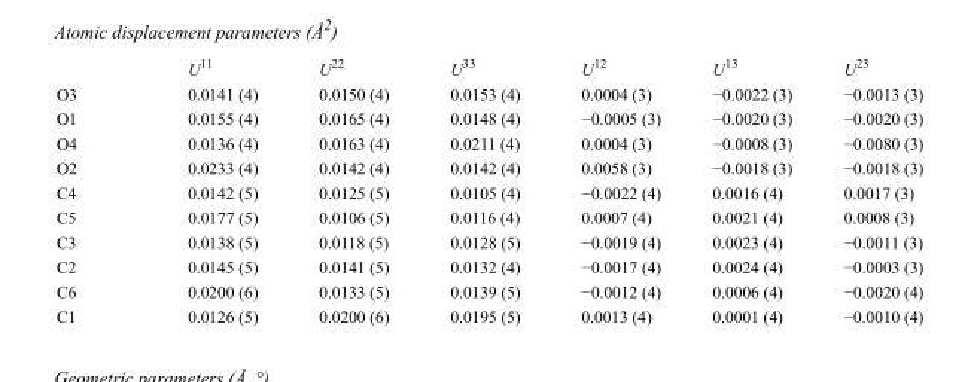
<table><thead><tr><td></td><td>U<sup>11</sup></td><td>U<sup>22</sup></td><td>U<sup>33</sup></td><td>U<sup>12</sup></td><td>U<sup>13</sup></td><td>U<sup>23</sup></td></tr></thead><tbody><tr><td>O3</td><td>0.0141 (4)</td><td>0.0150 (4)</td><td>0.0153 (4)</td><td>0.0004 (3)</td><td>−0.0022 (3)</td><td>−0.0013 (3)</td></tr><tr><td>O1</td><td>0.0155 (4)</td><td>0.0165 (4)</td><td>0.0148 (4)</td><td>−0.0005 (3)</td><td>−0.0020 (3)</td><td>−0.0020 (3)</td></tr><tr><td>O4</td><td>0.0136 (4)</td><td>0.0163 (4)</td><td>0.0211 (4)</td><td>0.0004 (3)</td><td>−0.0008 (3)</td><td>−0.0080 (3)</td></tr><tr><td>O2</td><td>0.0233 (4)</td><td>0.0142 (4)</td><td>0.0142 (4)</td><td>0.0058 (3)</td><td>−0.0018 (3)</td><td>−0.0018 (3)</td></tr><tr><td>C4</td><td>0.0142 (5)</td><td>0.0125 (5)</td><td>0.0105 (4)</td><td>−0.0022 (4)</td><td>0.0016 (4)</td><td>0.0017 (3)</td></tr><tr><td>C5</td><td>0.0177 (5)</td><td>0.0106 (5)</td><td>0.0116 (4)</td><td>0.0007 (4)</td><td>0.0021 (4)</td><td>0.0008 (3)</td></tr><tr><td>C3</td><td>0.0138 (5)</td><td>0.0118 (5)</td><td>0.0128 (5)</td><td>−0.0019 (4)</td><td>0.0023 (4)</td><td>−0.0011 (3)</td></tr><tr><td>C2</td><td>0.0145 (5)</td><td>0.0141 (5)</td><td>0.0132 (4)</td><td>−0.0017 (4)</td><td>0.0024 (4)</td><td>−0.0003 (3)</td></tr><tr><td>C6</td><td>0.0200 (6)</td><td>0.0133 (5)</td><td>0.0139 (5)</td><td>−0.0012 (4)</td><td>0.0006 (4)</td><td>−0.0020 (4)</td></tr><tr><td>C1</td><td>0.0126 (5)</td><td>0.0200 (6)</td><td>0.0195 (5)</td><td>0.0013 (4)</td><td>0.0001 (4)</td><td>−0.0010 (4)</td></tr></tbody></table>